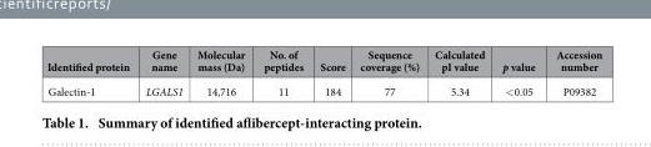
<table><thead><tr><td>Identified protein</td><td>Gene name</td><td>Molecular mass (Da)</td><td>No. of peptides</td><td>Score</td><td>Sequence coverage (%)</td><td>Calculated pI value</td><td>p value</td><td>Accession number</td></tr></thead><tbody><tr><td>Galectin-1</td><td>LGALS1</td><td>14,716</td><td>11</td><td>184</td><td>77</td><td>5.34</td><td>&lt; 0.05</td><td>P09382</td></tr></tbody></table>